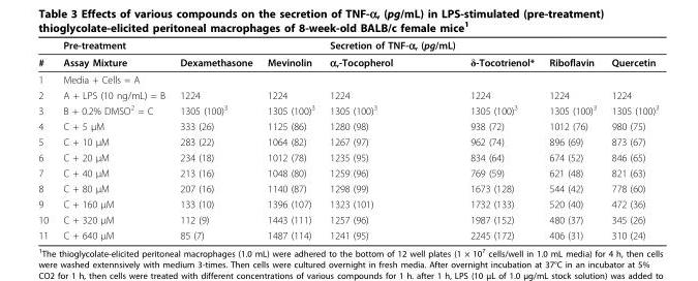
<table><thead><tr><td></td><td>Pre-treatment</td><td></td><td></td><td>Secretion of TNF-α, (pg/mL)</td><td></td><td></td><td></td></tr></thead><tbody><tr><td>#</td><td>Assay Mixture</td><td>Dexamethasone</td><td>Mevinolin</td><td>α,-Tocopherol</td><td>δ-Tocotrienol*</td><td>Riboflavin</td><td>Quercetin</td></tr><tr><td>1</td><td>Media + Cells = A</td><td></td><td></td><td></td><td></td><td></td><td></td></tr><tr><td>2</td><td>A + LPS (10 ng/mL) = B</td><td>1224</td><td>1224</td><td>1224</td><td>1224</td><td>1224</td><td>1224</td></tr><tr><td>3</td><td>B + 0.2% DMSO<sup>2</sup> = C</td><td>1305 (100)<sup>3</sup></td><td>1305 (100)<sup>3</sup></td><td>1305 (100)<sup>3</sup></td><td>1305 (100)<sup>3</sup></td><td>1305 (100)<sup>3</sup></td><td>1305 (100)<sup>3</sup></td></tr><tr><td>4</td><td>C + 5 μM</td><td>333 (26)</td><td>1125 (86)</td><td>1280 (98)</td><td>938 (72)</td><td>1012 (76)</td><td>980 (75)</td></tr><tr><td>5</td><td>C + 10 μM</td><td>283 (22)</td><td>1064 (82)</td><td>1267 (97)</td><td>962 (74)</td><td>896 (69)</td><td>873 (67)</td></tr><tr><td>6</td><td>C + 20 μM</td><td>234 (18)</td><td>1012 (78)</td><td>1235 (95)</td><td>834 (64)</td><td>674 (52)</td><td>846 (65)</td></tr><tr><td>7</td><td>C + 40 μM</td><td>213 (16)</td><td>1048 (80)</td><td>1259 (96)</td><td>769 (59)</td><td>621 (48)</td><td>821 (63)</td></tr><tr><td>8</td><td>C + 80 μM</td><td>207 (16)</td><td>1140 (87)</td><td>1298 (99)</td><td>1673 (128)</td><td>544 (42)</td><td>778 (60)</td></tr><tr><td>9</td><td>C + 160 μM</td><td>133 (10)</td><td>1396 (107)</td><td>1323 (101)</td><td>1732 (133)</td><td>520 (40)</td><td>472 (36)</td></tr><tr><td>10</td><td>C + 320 μM</td><td>112 (9)</td><td>1443 (111)</td><td>1257 (96)</td><td>1987 (152)</td><td>480 (37)</td><td>345 (26)</td></tr><tr><td>11</td><td>C + 640 μM</td><td>85 (7)</td><td>1487 (114)</td><td>1241 (95)</td><td>2245 (172)</td><td>406 (31)</td><td>310 (24)</td></tr></tbody></table>